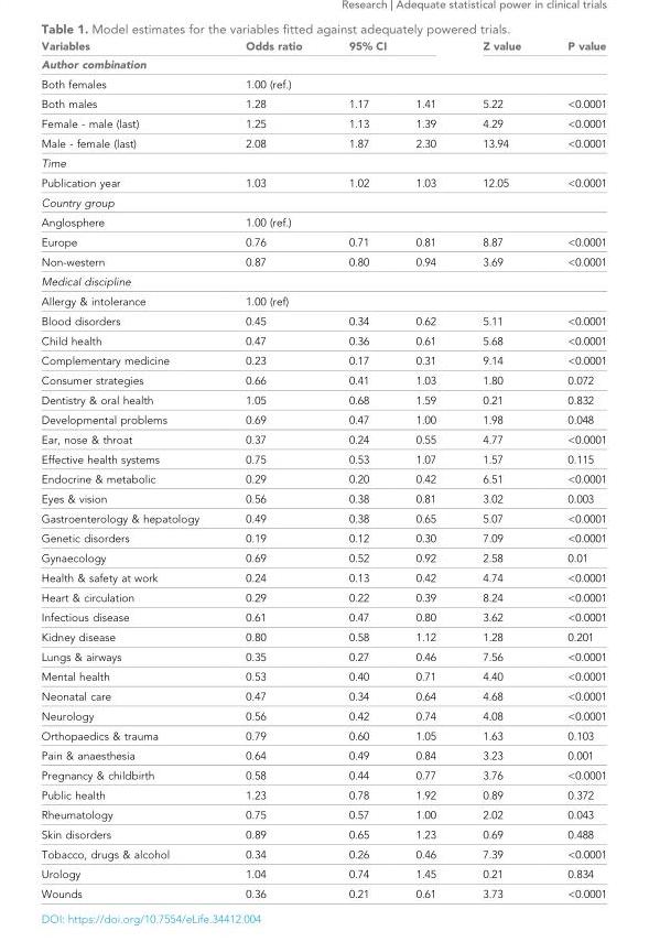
<table><thead><tr><td rowspan="2">Variables Author combination</td><td rowspan="2">Odds ratio</td><td colspan="2">95% CI</td><td rowspan="2">Z value</td><td rowspan="2">P value</td></tr><tr><td></td><td></td></tr></thead><tbody><tr><td>Both females</td><td>1.00 (ref.)</td><td></td><td></td><td></td><td></td></tr><tr><td>Both males</td><td>1.28</td><td>1.17</td><td>1.41</td><td>5.22</td><td>&lt;0.0001</td></tr><tr><td>Female - male (last)</td><td>1.25</td><td>1.13</td><td>1.39</td><td>4.29</td><td>&lt;0.0001</td></tr><tr><td>Male - female (last)</td><td>2.08</td><td>1.87</td><td>2.30</td><td>13.94</td><td>&lt;0.0001</td></tr><tr><td colspan="6">Time</td></tr><tr><td>Publication year</td><td>1.03</td><td>1.02</td><td>1.03</td><td>12.05</td><td>&lt;0.0001</td></tr><tr><td colspan="6">Country group</td></tr><tr><td>Anglosphere</td><td>1.00 (ref.)</td><td></td><td></td><td></td><td></td></tr><tr><td>Europe</td><td>0.76</td><td>0.71</td><td>0.81</td><td>8.87</td><td>&lt;0.0001</td></tr><tr><td>Non-western</td><td>0.87</td><td>0.80</td><td>0.94</td><td>3.69</td><td>&lt;0.0001</td></tr><tr><td colspan="6">Medical discipline</td></tr><tr><td>Allergy &amp; intolerance</td><td>1.00 (ref)</td><td></td><td></td><td></td><td></td></tr><tr><td>Blood disorders</td><td>0.45</td><td>0.34</td><td>0.62</td><td>5.11</td><td>&lt;0.0001</td></tr><tr><td>Child health</td><td>0.47</td><td>0.36</td><td>0.61</td><td>5.68</td><td>&lt;0.0001</td></tr><tr><td>Complementary medicine</td><td>0.23</td><td>0.17</td><td>0.31</td><td>9.14</td><td>&lt;0.0001</td></tr><tr><td>Consumer strategies</td><td>0.66</td><td>0.41</td><td>1.03</td><td>1.80</td><td>0.072</td></tr><tr><td>Dentistry &amp; oral health</td><td>1.05</td><td>0.68</td><td>1.59</td><td>0.21</td><td>0.832</td></tr><tr><td>Developmental problems</td><td>0.69</td><td>0.47</td><td>1.00</td><td>1.98</td><td>0.048</td></tr><tr><td>Ear, nose &amp; throat</td><td>0.37</td><td>0.24</td><td>0.55</td><td>4.77</td><td>&lt;0.0001</td></tr><tr><td>Effective health systems</td><td>0.75</td><td>0.53</td><td>1.07</td><td>1.57</td><td>0.115</td></tr><tr><td>Endocrine &amp; metabolic</td><td>0.29</td><td>0.20</td><td>0.42</td><td>6.51</td><td>&lt;0.0001</td></tr><tr><td>Eyes &amp; vision</td><td>0.56</td><td>0.38</td><td>0.81</td><td>3.02</td><td>0.003</td></tr><tr><td>Gastroenterology &amp; hepatology</td><td>0.49</td><td>0.38</td><td>0.65</td><td>5.07</td><td>&lt;0.0001</td></tr><tr><td>Genetic disorders</td><td>0.19</td><td>0.12</td><td>0.30</td><td>7.09</td><td>&lt;0.0001</td></tr><tr><td>Gynaecology</td><td>0.69</td><td>0.52</td><td>0.92</td><td>2.58</td><td>0.01</td></tr><tr><td>Health &amp; safety at work</td><td>0.24</td><td>0.13</td><td>0.42</td><td>4.74</td><td>&lt;0.0001</td></tr><tr><td>Heart &amp; circulation</td><td>0.29</td><td>0.22</td><td>0.39</td><td>8.24</td><td>&lt;0.0001</td></tr><tr><td>Infectious disease</td><td>0.61</td><td>0.47</td><td>0.80</td><td>3.62</td><td>&lt;0.0001</td></tr><tr><td>Kidney disease</td><td>0.80</td><td>0.58</td><td>1.12</td><td>1.28</td><td>0.201</td></tr><tr><td>Lungs &amp; airways</td><td>0.35</td><td>0.27</td><td>0.46</td><td>7.56</td><td>&lt;0.0001</td></tr><tr><td>Mental health</td><td>0.53</td><td>0.40</td><td>0.71</td><td>4.40</td><td>&lt;0.0001</td></tr><tr><td>Neonatal care</td><td>0.47</td><td>0.34</td><td>0.64</td><td>4.68</td><td>&lt;0.0001</td></tr><tr><td>Neurology</td><td>0.56</td><td>0.42</td><td>0.74</td><td>4.08</td><td>&lt;0.0001</td></tr><tr><td>Orthopaedics &amp; trauma</td><td>0.79</td><td>0.60</td><td>1.05</td><td>1.63</td><td>0.103</td></tr><tr><td>Pain &amp; anaesthesia</td><td>0.64</td><td>0.49</td><td>0.84</td><td>3.23</td><td>0.001</td></tr><tr><td>Pregnancy &amp; childbirth</td><td>0.58</td><td>0.44</td><td>0.77</td><td>3.76</td><td>&lt;0.0001</td></tr><tr><td>Public health</td><td>1.23</td><td>0.78</td><td>1.92</td><td>0.89</td><td>0.372</td></tr><tr><td>Rheumatology</td><td>0.75</td><td>0.57</td><td>1.00</td><td>2.02</td><td>0.043</td></tr><tr><td>Skin disorders</td><td>0.89</td><td>0.65</td><td>1.23</td><td>0.69</td><td>0.488</td></tr><tr><td>Tobacco, drugs &amp; alcohol</td><td>0.34</td><td>0.26</td><td>0.46</td><td>7.39</td><td>&lt;0.0001</td></tr><tr><td>Urology</td><td>1.04</td><td>0.74</td><td>1.45</td><td>0.21</td><td>0.834</td></tr><tr><td>Wounds</td><td>0.36</td><td>0.21</td><td>0.61</td><td>3.73</td><td>&lt;0.0001</td></tr></tbody></table>